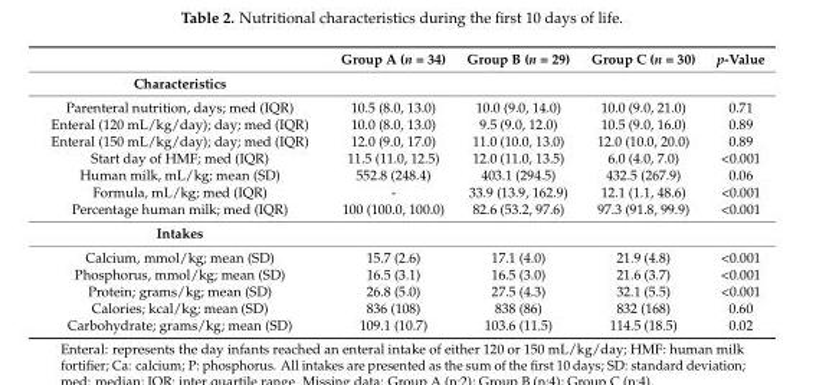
<table><thead><tr><td></td><td>Group A (n = 34)</td><td>Group B (n = 29)</td><td>Group C (n = 30)</td><td>p-Value</td></tr></thead><tbody><tr><td colspan="5">Characteristics</td></tr><tr><td>Parenteral nutrition, days; med (IQR)</td><td>10.5 (8.0, 13.0)</td><td>10.0 (9.0, 14.0)</td><td>10.0 (9.0, 21.0)</td><td>0.71</td></tr><tr><td>Enteral (120 mL/kg/day); day; med (IQR)</td><td>10.0 (8.0, 13.0)</td><td>9.5 (9.0, 12.0)</td><td>10.5 (9.0, 16.0)</td><td>0.89</td></tr><tr><td>Enteral (150 mL/kg/day); day; med (IQR)</td><td>12.0 (9.0, 17.0)</td><td>11.0 (10.0, 13.0)</td><td>12.0 (10.0, 20.0)</td><td>0.89</td></tr><tr><td>Start day of HMF; med (IQR)</td><td>11.5 (11.0, 12.5)</td><td>12.0 (11.0, 13.5)</td><td>6.0 (4.0, 7.0)</td><td>&lt;0.001</td></tr><tr><td>Human milk, mL/kg; mean (SD)</td><td>552.8 (248.4)</td><td>403.1 (294.5)</td><td>432.5 (267.9)</td><td>0.06</td></tr><tr><td>Formula, mL/kg; med (IQR)</td><td>-</td><td>33.9 (13.9, 162.9)</td><td>12.1 (1.1, 48.6)</td><td>&lt;0.001</td></tr><tr><td>Percentage human milk; med (IQR)</td><td>100 (100.0, 100.0)</td><td>82.6 (53.2, 97.6)</td><td>97.3 (91.8, 99.9)</td><td>&lt;0.001</td></tr><tr><td colspan="5">Intakes</td></tr><tr><td>Calcium, mmol/kg; mean (SD)</td><td>15.7 (2.6)</td><td>17.1 (4.0)</td><td>21.9 (4.8)</td><td>&lt;0.001</td></tr><tr><td>Phosphorus, mmol/kg; mean (SD)</td><td>16.5 (3.1)</td><td>16.5 (3.0)</td><td>21.6 (3.7)</td><td>&lt;0.001</td></tr><tr><td>Protein; grams/kg; mean (SD)</td><td>26.8 (5.0)</td><td>27.5 (4.3)</td><td>32.1 (5.5)</td><td>&lt;0.001</td></tr><tr><td>Calories; kcal/kg; mean (SD)</td><td>836 (108)</td><td>838 (86)</td><td>832 (168)</td><td>0.60</td></tr><tr><td>Carbohydrate; grams/kg; mean (SD)</td><td>109.1 (10.7)</td><td>103.6 (11.5)</td><td>114.5 (18.5)</td><td>0.02</td></tr></tbody></table>